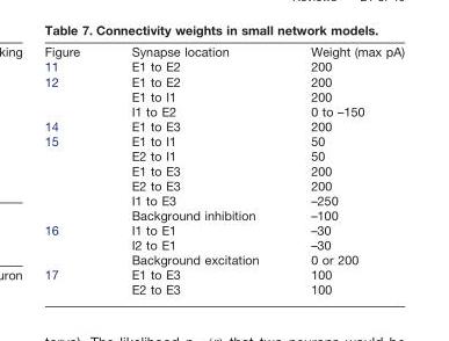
<table><thead><tr><td>Figure</td><td>Synapse location</td><td>Weight (max pA)</td></tr></thead><tbody><tr><td>11</td><td>E1 to E2</td><td>200</td></tr><tr><td rowspan="3">12</td><td>E1 to E2</td><td>200</td></tr><tr><td>E1 to I1</td><td>200</td></tr><tr><td>I1 to E2</td><td>0 to –150</td></tr><tr><td>14</td><td>E1 to E3</td><td>200</td></tr><tr><td rowspan="6">15</td><td>E1 to I1</td><td>50</td></tr><tr><td>E2 to I1</td><td>50</td></tr><tr><td>E1 to E3</td><td>200</td></tr><tr><td>E2 to E3</td><td>200</td></tr><tr><td>I1 to E3</td><td>–250</td></tr><tr><td>Background inhibition</td><td>–100</td></tr><tr><td rowspan="3">16</td><td>I1 to E1</td><td>–30</td></tr><tr><td>I2 to E1</td><td>–30</td></tr><tr><td>Background excitation</td><td>0 or 200</td></tr><tr><td rowspan="2">17</td><td>E1 to E3</td><td>100</td></tr><tr><td>E2 to E3</td><td>100</td></tr></tbody></table>